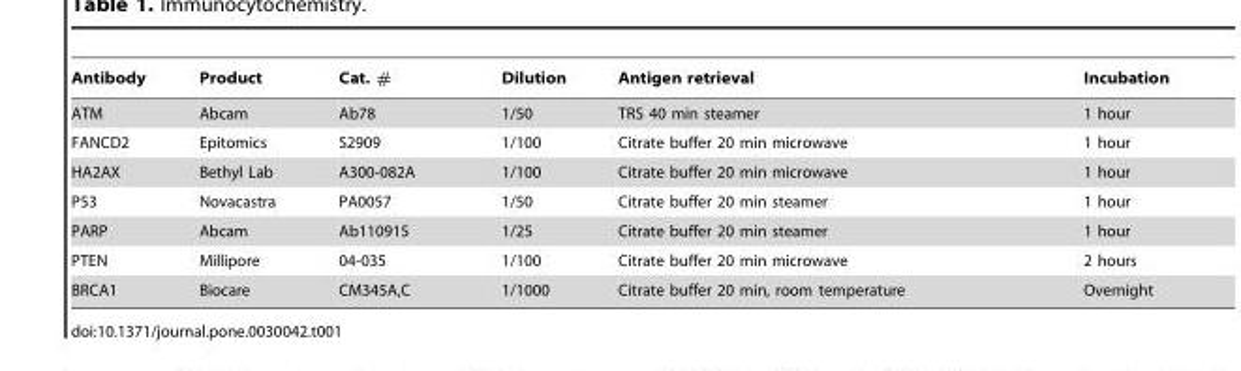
<table><thead><tr><td>Antibody</td><td>Product</td><td>Cat. #</td><td>Dilution</td><td>Antigen retrieval</td><td>Incubation</td></tr></thead><tbody><tr><td>ATM</td><td>Abcam</td><td>Ab78</td><td>1/50</td><td>TRS 40 min steamer</td><td>1 hour</td></tr><tr><td>FANCD2</td><td>Epitomics</td><td>S2909</td><td>1/100</td><td>Citrate buffer 20 min microwave</td><td>1 hour</td></tr><tr><td>HA2AX</td><td>Bethyl Lab</td><td>A300-082A</td><td>1/100</td><td>Citrate buffer 20 min microwave</td><td>1 hour</td></tr><tr><td>P53</td><td>Novacastra</td><td>PA0057</td><td>1/50</td><td>Citrate buffer 20 min steamer</td><td>1 hour</td></tr><tr><td>PARP</td><td>Abcam</td><td>Ab110915</td><td>1/25</td><td>Citrate buffer 20 min steamer</td><td>1 hour</td></tr><tr><td>PTEN</td><td>Millipore</td><td>04-035</td><td>1/100</td><td>Citrate buffer 20 min microwave</td><td>2 hours</td></tr><tr><td>BRCA1</td><td>Biocare</td><td>CM345A,C</td><td>1/1000</td><td>Citrate buffer 20 min, room temperature</td><td>Overnight</td></tr></tbody></table>